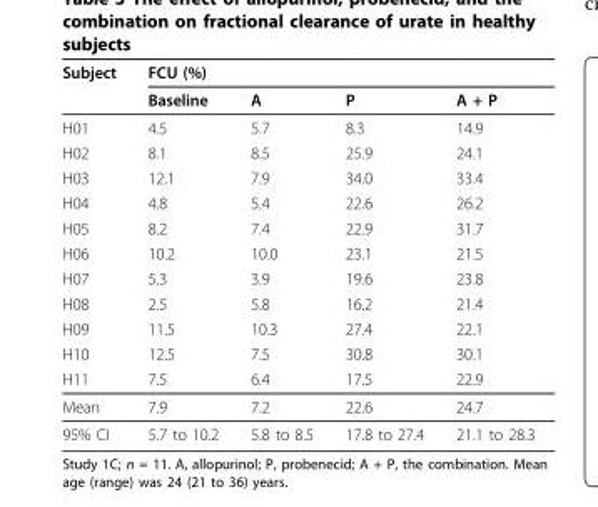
<table><thead><tr><td rowspan="2">Subject</td><td colspan="4">FCU (%)</td></tr><tr><td>Baseline</td><td>A</td><td>P</td><td>A + P</td></tr></thead><tbody><tr><td>H01</td><td>4.5</td><td>5.7</td><td>8.3</td><td>14.9</td></tr><tr><td>H02</td><td>8.1</td><td>8.5</td><td>25.9</td><td>24.1</td></tr><tr><td>H03</td><td>12.1</td><td>7.9</td><td>34.0</td><td>33.4</td></tr><tr><td>H04</td><td>4.8</td><td>5.4</td><td>22.6</td><td>26.2</td></tr><tr><td>H05</td><td>8.2</td><td>7.4</td><td>22.9</td><td>31.7</td></tr><tr><td>H06</td><td>10.2</td><td>10.0</td><td>23.1</td><td>21.5</td></tr><tr><td>H07</td><td>5.3</td><td>3.9</td><td>19.6</td><td>23.8</td></tr><tr><td>H08</td><td>2.5</td><td>5.8</td><td>16.2</td><td>21.4</td></tr><tr><td>H09</td><td>11.5</td><td>10.3</td><td>27.4</td><td>22.1</td></tr><tr><td>H10</td><td>12.5</td><td>7.5</td><td>30.8</td><td>30.1</td></tr><tr><td>H11</td><td>7.5</td><td>6.4</td><td>17.5</td><td>22.9</td></tr><tr><td>Mean</td><td>7.9</td><td>7.2</td><td>22.6</td><td>24.7</td></tr><tr><td>95% CI</td><td>5.7 to 10.2</td><td>5.8 to 8.5</td><td>17.8 to 27.4</td><td>21.1 to 28.3</td></tr></tbody></table>